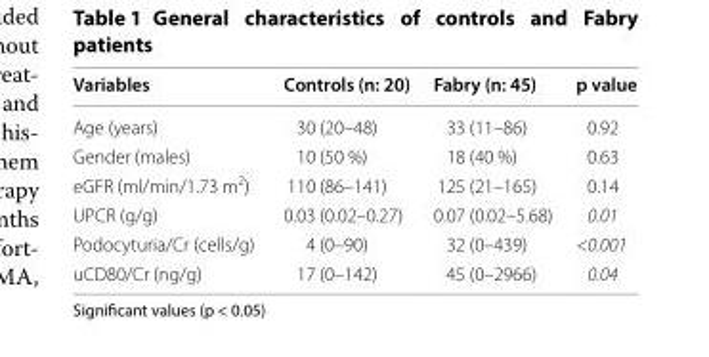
<table><thead><tr><td>Variables</td><td>Controls (n: 20)</td><td>Fabry (n: 45)</td><td>p value</td></tr></thead><tbody><tr><td>Age (years)</td><td>30 (20–48)</td><td>33 (11–86)</td><td>0.92</td></tr><tr><td>Gender (males)</td><td>10 (50 %)</td><td>18 (40 %)</td><td>0.63</td></tr><tr><td>eGFR (ml/min/1.73 m<sup>2</sup>)</td><td>110 (86–141)</td><td>125 (21–165)</td><td>0.14</td></tr><tr><td>UPCR (g/g)</td><td>0.03 (0.02–0.27)</td><td>0.07 (0.02–5.68)</td><td>0.01</td></tr><tr><td>Podocyturia/Cr (cells/g)</td><td>4 (0–90)</td><td>32 (0–439)</td><td>&lt;0.001</td></tr><tr><td>uCD80/Cr (ng/g)</td><td>17 (0–142)</td><td>45 (0–2966)</td><td>0.04</td></tr></tbody></table>